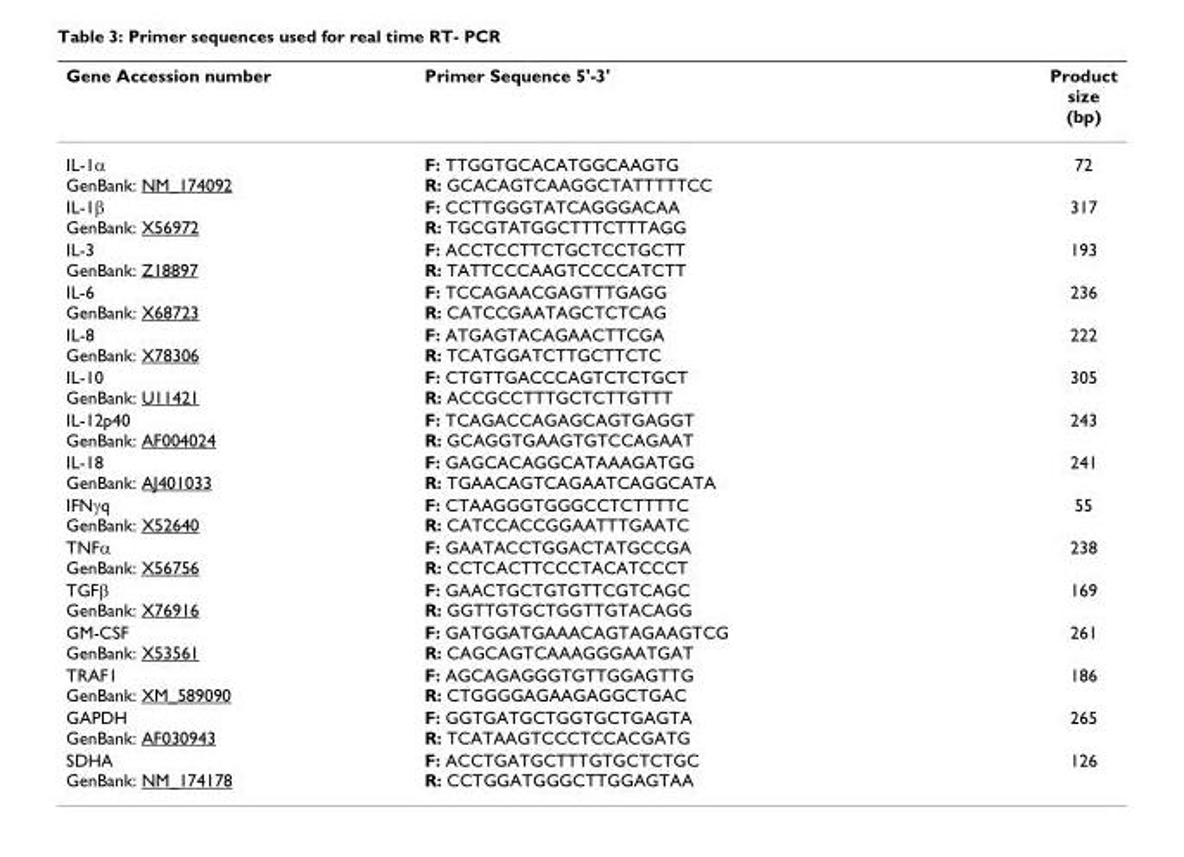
<table><thead><tr><td>Gene Accession number</td><td>Primer Sequence 5&#x27;-3&#x27;</td><td>Product size (bp)</td></tr></thead><tbody><tr><td>IL-1α GenBank: NM_174092</td><td>F: TTGGTGCACATGGCAAGTG R: GCACAGTCAAGGCTATTTTTCC</td><td>72</td></tr><tr><td>IL-1β GenBank: X56972</td><td>F: CCTTGGGTATCAGGGACAA R: TGCGTATGGCTTTCTTTAGG</td><td>317</td></tr><tr><td>IL-3 GenBank: Z18897</td><td>F: ACCTCCTTCTGCTCCTGCTT R: TATTCCCAAGTCCCCATCTT</td><td>193</td></tr><tr><td>IL-6 GenBank: X68723</td><td>F: TCCAGAACGAGTTTGAGG R: CATCCGAATAGCTCTCAG</td><td>236</td></tr><tr><td>IL-8 GenBank: X78306</td><td>F: ATGAGTACAGAACTTCGA R: TCATGGATCTTGCTTCTC</td><td>222</td></tr><tr><td>IL-10 GenBank: U11421</td><td>F: CTGTTGACCCAGTCTCTGCT R: ACCGCCTTTGCTCTTGTTT</td><td>305</td></tr><tr><td>IL-12p40 GenBank: AF004024</td><td>F: TCAGACCAGAGCAGTGAGGT R: GCAGGTGAAGTGTCCAGAAT</td><td>243</td></tr><tr><td>IL-18 GenBank: AJ401033</td><td>F: GAGCACAGGCATAAAGATGG R: TGAACAGTCAGAATCAGGCATA</td><td>241</td></tr><tr><td>IFNγq GenBank: X52640</td><td>F: CTAAGGGTGGGCCTCTTTTC R: CATCCACCGGAATTTGAATC</td><td>55</td></tr><tr><td>TNFα GenBank: X56756</td><td>F: GAATACCTGGACTATGCCGA R: CCTCACTTCCCTACATCCCT</td><td>238</td></tr><tr><td>TGFβ GenBank: X76916</td><td>F: GAACTGCTGTGTTCGTCAGC R: GGTTGTGCTGGTTGTACAGG</td><td>169</td></tr><tr><td>GM-CSF GenBank: X53561</td><td>F: GATGGATGAAACAGTAGAAGTCG R: CAGCAGTCAAAGGGAATGAT</td><td>261</td></tr><tr><td>TRAF1 GenBank: XM_589090</td><td>F: AGCAGAGGGTGTTGGAGTTG R: CTGGGGAGAAGAGGCTGAC</td><td>186</td></tr><tr><td>GAPDH GenBank: AF030943</td><td>F: GGTGATGCTGGTGCTGAGTA R: TCATAAGTCCCTCCACGATG</td><td>265</td></tr><tr><td>SDHA GenBank: NM_174178</td><td>F: ACCTGATGCTTTGTGCTCTGC R: CCTGGATGGGCTTGGAGTAA</td><td>126</td></tr></tbody></table>